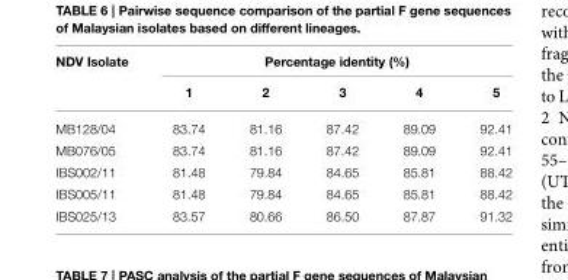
<table><thead><tr><td rowspan="2">NDV Isolate</td><td colspan="5">Percentage identity (%)</td></tr><tr><td>1</td><td>2</td><td>3</td><td>4</td><td>5</td></tr></thead><tbody><tr><td>MB128/04</td><td>83.74</td><td>81.16</td><td>87.42</td><td>89.09</td><td>92.41</td></tr><tr><td>MB076/05</td><td>83.74</td><td>81.16</td><td>87.42</td><td>89.09</td><td>92.41</td></tr><tr><td>IBS002/11</td><td>81.48</td><td>79.84</td><td>84.65</td><td>85.81</td><td>88.42</td></tr><tr><td>IBS005/11</td><td>81.48</td><td>79.84</td><td>84.65</td><td>85.81</td><td>88.42</td></tr><tr><td>IBS025/13</td><td>83.57</td><td>80.66</td><td>86.50</td><td>87.87</td><td>91.32</td></tr></tbody></table>